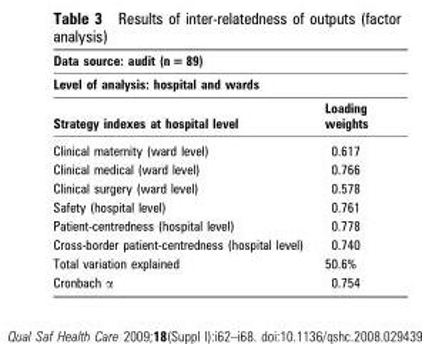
<table><thead><tr><td rowspan="2" colspan="2">Data source: audit (n = 89) Level of analysis: hospital and wards</td></tr><tr></tr><tr><td>Strategy indexes at hospital level</td><td>Loading weights</td></tr></thead><tbody><tr><td>Clinical maternity (ward level)</td><td>0.617</td></tr><tr><td>Clinical medical (ward level)</td><td>0.766</td></tr><tr><td>Clinical surgery (ward level)</td><td>0.578</td></tr><tr><td>Safety (hospital level)</td><td>0.761</td></tr><tr><td>Patient-centredness (hospital level)</td><td>0.778</td></tr><tr><td>Cross-border patient-centredness (hospital level)</td><td>0.740</td></tr><tr><td>Total variation explained</td><td>50.6%</td></tr><tr><td>Cronbach α</td><td>0.754</td></tr></tbody></table>